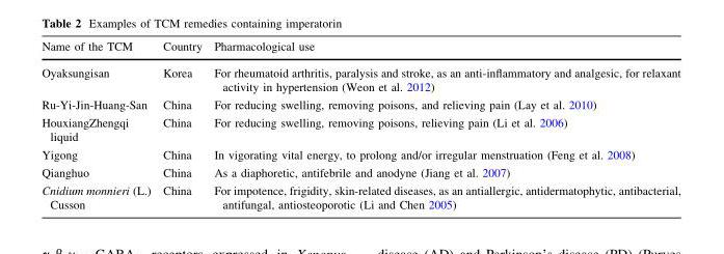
<table><thead><tr><td>Name of the TCM</td><td>Country</td><td>Pharmacological use</td></tr></thead><tbody><tr><td>Oyaksungisan</td><td>Korea</td><td>For rheumatoid arthritis, paralysis and stroke, as an anti-inflammatory and analgesic, for relaxant activity in hypertension (Weon et al. 2012)</td></tr><tr><td>Ru-Yi-Jin-Huang-San</td><td>China</td><td>For reducing swelling, removing poisons, and relieving pain (Lay et al. 2010)</td></tr><tr><td>HouxiangZhengqi liquid</td><td>China</td><td>For reducing swelling, removing poisons, relieving pain (Li et al. 2006)</td></tr><tr><td>Yigong</td><td>China</td><td>In vigorating vital energy, to prolong and/or irregular menstruation (Feng et al. 2008)</td></tr><tr><td>Qianghuo</td><td>China</td><td>As a diaphoretic, antifebrile and anodyne (Jiang et al. 2007)</td></tr><tr><td>Cnidium monnieri (L.) Cusson</td><td>China</td><td>For impotence, frigidity, skin-related diseases, as an antiallergic, antidermatophytic, antibacterial, antifungal, antiosteoporotic (Li and Chen 2005)</td></tr></tbody></table>